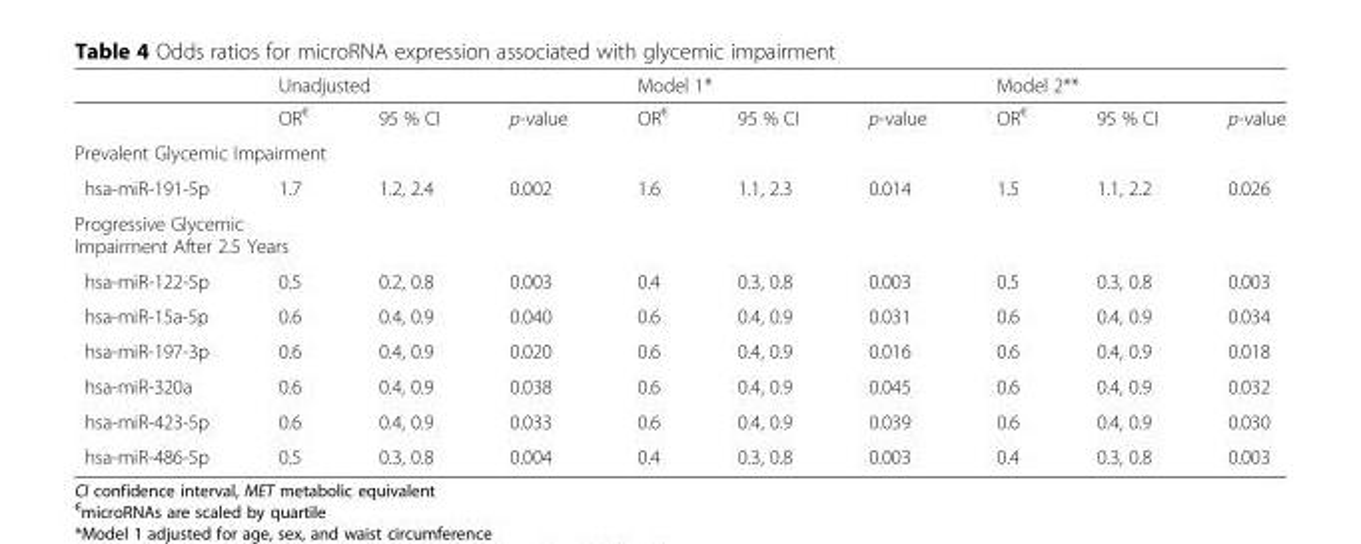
<table><thead><tr><td rowspan="2"></td><td colspan="3">Unadjusted</td><td colspan="3">Model 1*</td><td colspan="3">Model 2**</td></tr><tr><td>OR<sup>€</sup></td><td>95 % CI</td><td>p-value</td><td>OR<sup>€</sup></td><td>95 % CI</td><td>p-value</td><td>OR<sup>€</sup></td><td>95 % CI</td><td>p-value</td></tr></thead><tbody><tr><td colspan="10">Prevalent Glycemic Impairment</td></tr><tr><td>hsa-miR-191-5p</td><td>1.7</td><td>1.2, 2.4</td><td>0.002</td><td>1.6</td><td>1.1, 2.3</td><td>0.014</td><td>1.5</td><td>1.1, 2.2</td><td>0.026</td></tr><tr><td colspan="10">Progressive Glycemic Impairment After 2.5 Years</td></tr><tr><td>hsa-miR-122-5p</td><td>0.5</td><td>0.2, 0.8</td><td>0.003</td><td>0.4</td><td>0.3, 0.8</td><td>0.003</td><td>0.5</td><td>0.3, 0.8</td><td>0.003</td></tr><tr><td>hsa-miR-15a-5p</td><td>0.6</td><td>0.4, 0.9</td><td>0.040</td><td>0.6</td><td>0.4, 0.9</td><td>0.031</td><td>0.6</td><td>0.4, 0.9</td><td>0.034</td></tr><tr><td>hsa-miR-197-3p</td><td>0.6</td><td>0.4, 0.9</td><td>0.020</td><td>0.6</td><td>0.4, 0.9</td><td>0.016</td><td>0.6</td><td>0.4, 0.9</td><td>0.018</td></tr><tr><td>hsa-miR-320a</td><td>0.6</td><td>0.4, 0.9</td><td>0.038</td><td>0.6</td><td>0.4, 0.9</td><td>0.045</td><td>0.6</td><td>0.4, 0.9</td><td>0.032</td></tr><tr><td>hsa-miR-423-5p</td><td>0.6</td><td>0.4, 0.9</td><td>0.033</td><td>0.6</td><td>0.4, 0.9</td><td>0.039</td><td>0.6</td><td>0.4, 0.9</td><td>0.030</td></tr><tr><td>hsa-miR-486-5p</td><td>0.5</td><td>0.3, 0.8</td><td>0.004</td><td>0.4</td><td>0.3, 0.8</td><td>0.003</td><td>0.4</td><td>0.3, 0.8</td><td>0.003</td></tr></tbody></table>